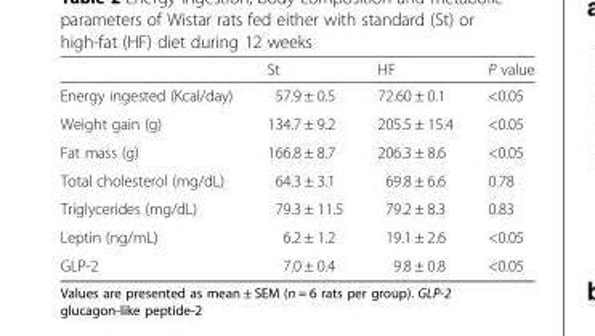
<table><thead><tr><td></td><td>St</td><td>HF</td><td>P value</td></tr></thead><tbody><tr><td>Energy ingested (Kcal/day)</td><td>57.9 ± 0.5</td><td>72.60 ± 0.1</td><td>&lt;0.05</td></tr><tr><td>Weight gain (g)</td><td>134.7 ± 9.2</td><td>205.5 ± 15.4</td><td>&lt;0.05</td></tr><tr><td>Fat mass (g)</td><td>166.8 ± 8.7</td><td>206.3 ± 8.6</td><td>&lt;0.05</td></tr><tr><td>Total cholesterol (mg/dL)</td><td>64.3 ± 3.1</td><td>69.8 ± 6.6</td><td>0.78</td></tr><tr><td>Triglycerides (mg/dL)</td><td>79.3 ± 11.5</td><td>79.2 ± 8.3</td><td>0.83</td></tr><tr><td>Leptin (ng/mL)</td><td>6.2 ± 1.2</td><td>19.1 ± 2.6</td><td>&lt;0.05</td></tr><tr><td>GLP-2</td><td>7.0 ± 0.4</td><td>9.8 ± 0.8</td><td>&lt;0.05</td></tr></tbody></table>